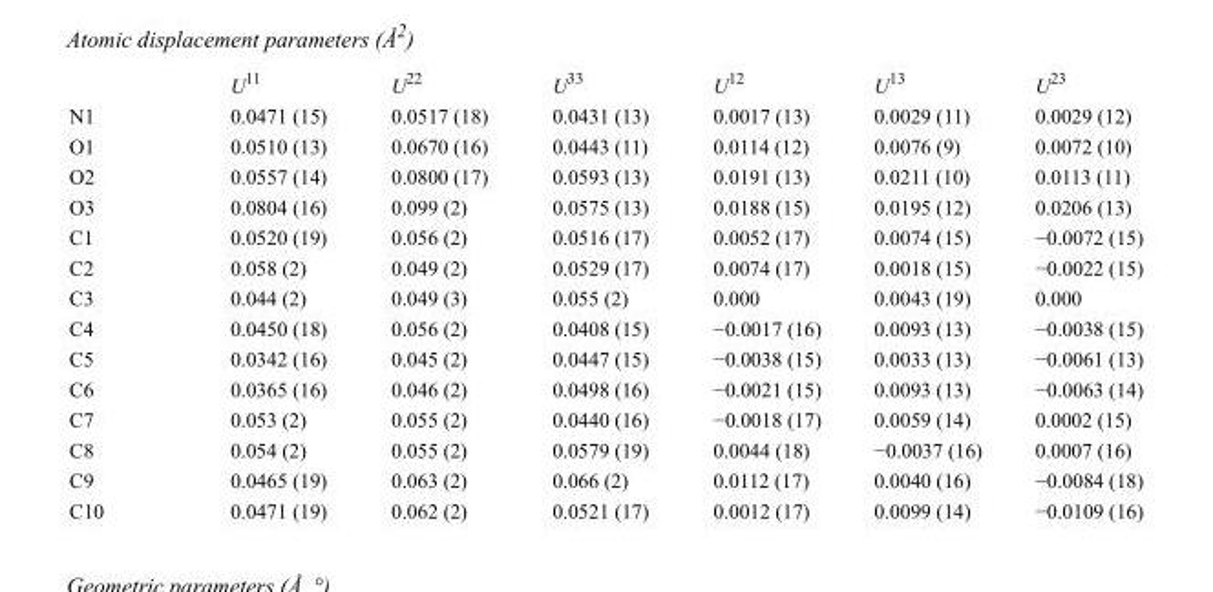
<table><thead><tr><td></td><td>U<sup>11</sup></td><td>U<sup>22</sup></td><td>U<sup>33</sup></td><td>U<sup>12</sup></td><td>U<sup>13</sup></td><td>U<sup>23</sup></td></tr></thead><tbody><tr><td>N1</td><td>0.0471 (15)</td><td>0.0517 (18)</td><td>0.0431 (13)</td><td>0.0017 (13)</td><td>0.0029 (11)</td><td>0.0029 (12)</td></tr><tr><td>O1</td><td>0.0510 (13)</td><td>0.0670 (16)</td><td>0.0443 (11)</td><td>0.0114 (12)</td><td>0.0076 (9)</td><td>0.0072 (10)</td></tr><tr><td>O2</td><td>0.0557 (14)</td><td>0.0800 (17)</td><td>0.0593 (13)</td><td>0.0191 (13)</td><td>0.0211 (10)</td><td>0.0113 (11)</td></tr><tr><td>O3</td><td>0.0804 (16)</td><td>0.099 (2)</td><td>0.0575 (13)</td><td>0.0188 (15)</td><td>0.0195 (12)</td><td>0.0206 (13)</td></tr><tr><td>C1</td><td>0.0520 (19)</td><td>0.056 (2)</td><td>0.0516 (17)</td><td>0.0052 (17)</td><td>0.0074 (15)</td><td>−0.0072 (15)</td></tr><tr><td>C2</td><td>0.058 (2)</td><td>0.049 (2)</td><td>0.0529 (17)</td><td>0.0074 (17)</td><td>0.0018 (15)</td><td>−0.0022 (15)</td></tr><tr><td>C3</td><td>0.044 (2)</td><td>0.049 (3)</td><td>0.055 (2)</td><td>0.000</td><td>0.0043 (19)</td><td>0.000</td></tr><tr><td>C4</td><td>0.0450 (18)</td><td>0.056 (2)</td><td>0.0408 (15)</td><td>−0.0017 (16)</td><td>0.0093 (13)</td><td>−0.0038 (15)</td></tr><tr><td>C5</td><td>0.0342 (16)</td><td>0.045 (2)</td><td>0.0447 (15)</td><td>−0.0038 (15)</td><td>0.0033 (13)</td><td>−0.0061 (13)</td></tr><tr><td>C6</td><td>0.0365 (16)</td><td>0.046 (2)</td><td>0.0498 (16)</td><td>−0.0021 (15)</td><td>0.0093 (13)</td><td>−0.0063 (14)</td></tr><tr><td>C7</td><td>0.053 (2)</td><td>0.055 (2)</td><td>0.0440 (16)</td><td>−0.0018 (17)</td><td>0.0059 (14)</td><td>0.0002 (15)</td></tr><tr><td>C8</td><td>0.054 (2)</td><td>0.055 (2)</td><td>0.0579 (19)</td><td>0.0044 (18)</td><td>−0.0037 (16)</td><td>0.0007 (16)</td></tr><tr><td>C9</td><td>0.0465 (19)</td><td>0.063 (2)</td><td>0.066 (2)</td><td>0.0112 (17)</td><td>0.0040 (16)</td><td>−0.0084 (18)</td></tr><tr><td>C10</td><td>0.0471 (19)</td><td>0.062 (2)</td><td>0.0521 (17)</td><td>0.0012 (17)</td><td>0.0099 (14)</td><td>−0.0109 (16)</td></tr></tbody></table>